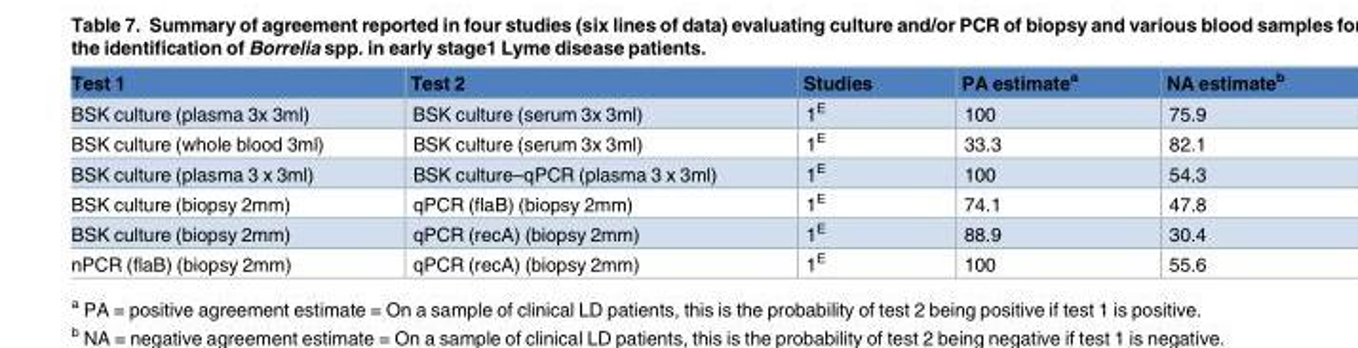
<table><thead><tr><td>Test 1</td><td>Test 2</td><td>Studies</td><td>PA estimate<sup>a</sup></td><td>NA estimate<sup>b</sup></td></tr></thead><tbody><tr><td>BSK culture (plasma 3x 3ml)</td><td>BSK culture (serum 3x 3ml)</td><td>1<sup>E</sup></td><td>100</td><td>75.9</td></tr><tr><td>BSK culture (whole blood 3ml)</td><td>BSK culture (serum 3x 3ml)</td><td>1<sup>E</sup></td><td>33.3</td><td>82.1</td></tr><tr><td>BSK culture (plasma 3 x 3ml)</td><td>BSK culture–qPCR (plasma 3 x 3ml)</td><td>1<sup>E</sup></td><td>100</td><td>54.3</td></tr><tr><td>BSK culture (biopsy 2mm)</td><td>qPCR (flaB) (biopsy 2mm)</td><td>1<sup>E</sup></td><td>74.1</td><td>47.8</td></tr><tr><td>BSK culture (biopsy 2mm)</td><td>qPCR (recA) (biopsy 2mm)</td><td>1<sup>E</sup></td><td>88.9</td><td>30.4</td></tr><tr><td>nPCR (flaB) (biopsy 2mm)</td><td>qPCR (recA) (biopsy 2mm)</td><td>1<sup>E</sup></td><td>100</td><td>55.6</td></tr></tbody></table>